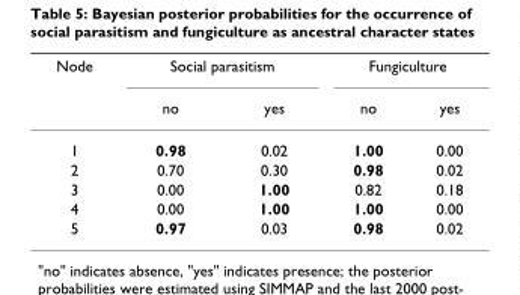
<table><thead><tr><td rowspan="2">Node</td><td colspan="2">Social parasitism</td><td colspan="2">Fungiculture</td></tr><tr><td>no</td><td>yes</td><td>no</td><td>yes</td></tr></thead><tbody><tr><td>1</td><td>0.98</td><td>0.02</td><td>1.00</td><td>0.00</td></tr><tr><td>2</td><td>0.70</td><td>0.30</td><td>0.98</td><td>0.02</td></tr><tr><td>3</td><td>0.00</td><td>1.00</td><td>0.82</td><td>0.18</td></tr><tr><td>4</td><td>0.00</td><td>1.00</td><td>1.00</td><td>0.00</td></tr><tr><td>5</td><td>0.97</td><td>0.03</td><td>0.98</td><td>0.02</td></tr></tbody></table>